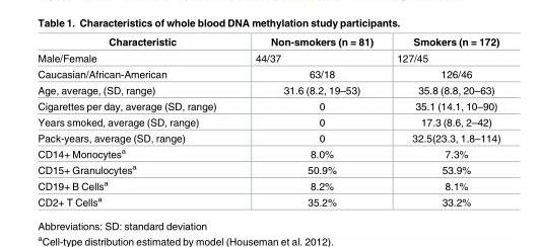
<table><thead><tr><td>Characteristic</td><td>Non-smokers (n = 81)</td><td>Smokers (n = 172)</td></tr></thead><tbody><tr><td>Male/Female</td><td>44/37</td><td>127/45</td></tr><tr><td>Caucasian/African-American</td><td>63/18</td><td>126/46</td></tr><tr><td>Age, average, (SD, range)</td><td>31.6 (8.2, 19–53)</td><td>35.8 (8.8, 20–63)</td></tr><tr><td>Cigarettes per day, average (SD, range)</td><td>0</td><td>35.1 (14.1, 10–90)</td></tr><tr><td>Years smoked, average (SD, range)</td><td>0</td><td>17.3 (8.6, 2–42)</td></tr><tr><td>Pack-years, average (SD, range)</td><td>0</td><td>32.5(23.3, 1.8–114)</td></tr><tr><td>CD14+ Monocytes<sup>a</sup></td><td>8.0%</td><td>7.3%</td></tr><tr><td>CD15+ Granulocytes<sup>a</sup></td><td>50.9%</td><td>53.9%</td></tr><tr><td>CD19+ B Cells<sup>a</sup></td><td>8.2%</td><td>8.1%</td></tr><tr><td>CD2+ T Cells<sup>a</sup></td><td>35.2%</td><td>33.2%</td></tr></tbody></table>